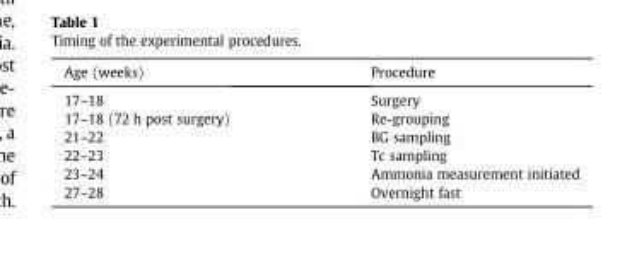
<table><thead><tr><td>Age (weeks)</td><td>Procedure</td></tr></thead><tbody><tr><td>17–18</td><td>Surgery</td></tr><tr><td>17–18 (72 h post surgery)</td><td>Re-grouping</td></tr><tr><td>21–22</td><td>BG sampling</td></tr><tr><td>22–23</td><td>Tc sampling</td></tr><tr><td>23–24</td><td>Ammonia measurement initiated</td></tr><tr><td>27–28</td><td>Overnight fast</td></tr></tbody></table>